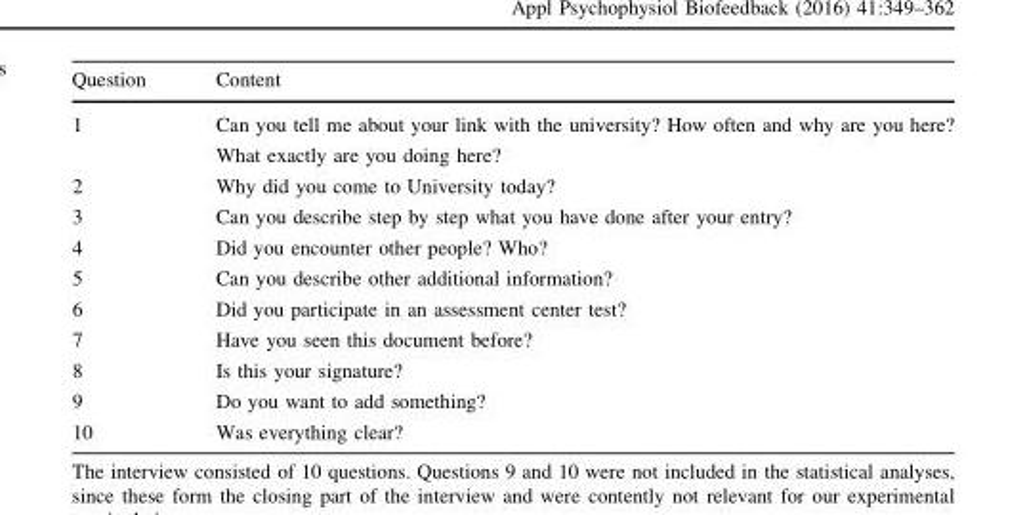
<table><thead><tr><td>Question</td><td>Content</td></tr></thead><tbody><tr><td>1</td><td>Can you tell me about your link with the university? How often and why are you here? What exactly are you doing here?</td></tr><tr><td>2</td><td>Why did you come to University today?</td></tr><tr><td>3</td><td>Can you describe step by step what you have done after your entry?</td></tr><tr><td>4</td><td>Did you encounter other people? Who?</td></tr><tr><td>5</td><td>Can you describe other additional information?</td></tr><tr><td>6</td><td>Did you participate in an assessment center test?</td></tr><tr><td>7</td><td>Have you seen this document before?</td></tr><tr><td>8</td><td>Is this your signature?</td></tr><tr><td>9</td><td>Do you want to add something?</td></tr><tr><td>10</td><td>Was everything clear?</td></tr></tbody></table>